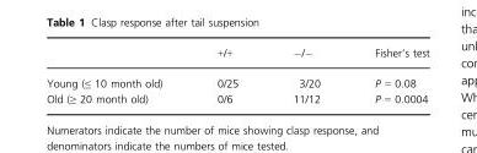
<table><thead><tr><td></td><td>+/+</td><td>−/−</td><td>Fisher’s test</td></tr></thead><tbody><tr><td>Young (≤ 10 month old)</td><td>0/25</td><td>3/20</td><td>P = 0.08</td></tr><tr><td>Old (≥ 20 month old)</td><td>0/6</td><td>11/12</td><td>P = 0.0004</td></tr></tbody></table>